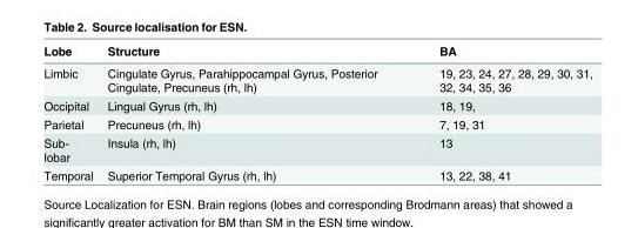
<table><thead><tr><td>Lobe</td><td>Structure</td><td>BA</td></tr></thead><tbody><tr><td>Limbic</td><td>Cingulate Gyrus, Parahippocampal Gyrus, Posterior Cingulate, Precuneus (rh, lh)</td><td>19, 23, 24, 27, 28, 29, 30, 31, 32, 34, 35, 36</td></tr><tr><td>Occipital</td><td>Lingual Gyrus (rh, lh)</td><td>18, 19,</td></tr><tr><td>Parietal</td><td>Precuneus (rh, lh)</td><td>7, 19, 31</td></tr><tr><td>Sub- lobar</td><td>Insula (rh, lh)</td><td>13</td></tr><tr><td>Temporal</td><td>Superior Temporal Gyrus (rh, lh)</td><td>13, 22, 38, 41</td></tr></tbody></table>